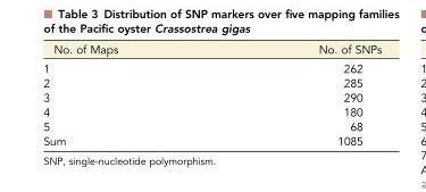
<table><thead><tr><td>No. of Maps</td><td>No. of SNPs</td></tr></thead><tbody><tr><td>1</td><td>262</td></tr><tr><td>2</td><td>285</td></tr><tr><td>3</td><td>290</td></tr><tr><td>4</td><td>180</td></tr><tr><td>5</td><td>68</td></tr><tr><td>Sum</td><td>1085</td></tr></tbody></table>